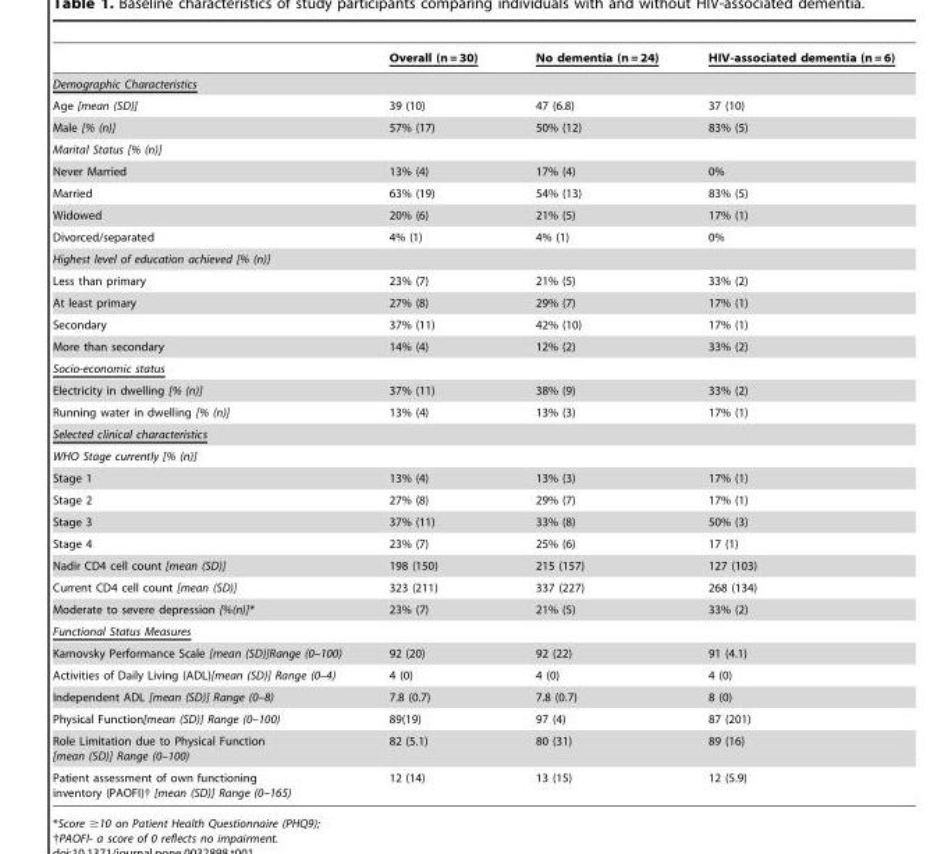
<table><thead><tr><td></td><td>Overall (n = 30)</td><td>No dementia (n = 24)</td><td>HIV-associated dementia (n = 6)</td></tr></thead><tbody><tr><td colspan="4">Demographic Characteristics</td></tr><tr><td>Age [mean (SD)]</td><td>39 (10)</td><td>47 (6.8)</td><td>37 (10)</td></tr><tr><td>Male [% (n)]</td><td>57% (17)</td><td>50% (12)</td><td>83% (5)</td></tr><tr><td colspan="4">Marital Status [% (n)]</td></tr><tr><td>Never Married</td><td>13% (4)</td><td>17% (4)</td><td>0%</td></tr><tr><td>Married</td><td>63% (19)</td><td>54% (13)</td><td>83% (5)</td></tr><tr><td>Widowed</td><td>20% (6)</td><td>21% (5)</td><td>17% (1)</td></tr><tr><td>Divorced/separated</td><td>4% (1)</td><td>4% (1)</td><td>0%</td></tr><tr><td colspan="4">Highest level of education achieved [% (n)]</td></tr><tr><td>Less than primary</td><td>23% (7)</td><td>21% (5)</td><td>33% (2)</td></tr><tr><td>At least primary</td><td>27% (8)</td><td>29% (7)</td><td>17% (1)</td></tr><tr><td>Secondary</td><td>37% (11)</td><td>42% (10)</td><td>17% (1)</td></tr><tr><td>More than secondary</td><td>14% (4)</td><td>12% (2)</td><td>33% (2)</td></tr><tr><td colspan="4">Socio-economic status</td></tr><tr><td>Electricity in dwelling [% (n)]</td><td>37% (11)</td><td>38% (9)</td><td>33% (2)</td></tr><tr><td>Running water in dwelling [% (n)]</td><td>13% (4)</td><td>13% (3)</td><td>17% (1)</td></tr><tr><td colspan="4">Selected clinical characteristics</td></tr><tr><td colspan="4">WHO Stage currently [% (n)]</td></tr><tr><td>Stage 1</td><td>13% (4)</td><td>13% (3)</td><td>17% (1)</td></tr><tr><td>Stage 2</td><td>27% (8)</td><td>29% (7)</td><td>17% (1)</td></tr><tr><td>Stage 3</td><td>37% (11)</td><td>33% (8)</td><td>50% (3)</td></tr><tr><td>Stage 4</td><td>23% (7)</td><td>25% (6)</td><td>17 (1)</td></tr><tr><td>Nadir CD4 cell count [mean (SD)]</td><td>198 (150)</td><td>215 (157)</td><td>127 (103)</td></tr><tr><td>Current CD4 cell count [mean (SD)]</td><td>323 (211)</td><td>337 (227)</td><td>268 (134)</td></tr><tr><td>Moderate to severe depression [%(n)]*</td><td>23% (7)</td><td>21% (5)</td><td>33% (2)</td></tr><tr><td colspan="4">Functional Status Measures</td></tr><tr><td>Karnovsky Performance Scale [mean (SD)]Range (0–100)</td><td>92 (20)</td><td>92 (22)</td><td>91 (4.1)</td></tr><tr><td>Activities of Daily Living (ADL)[mean (SD)] Range (0–4)</td><td>4 (0)</td><td>4 (0)</td><td>4 (0)</td></tr><tr><td>Independent ADL [mean (SD)] Range (0–8)</td><td>7.8 (0.7)</td><td>7.8 (0.7)</td><td>8 (0)</td></tr><tr><td>Physical Function[mean (SD)] Range (0–100)</td><td>89(19)</td><td>97 (4)</td><td>87 (201)</td></tr><tr><td>Role Limitation due to Physical Function [mean (SD)] Range (0–100)</td><td>82 (5.1)</td><td>80 (31)</td><td>89 (16)</td></tr><tr><td>Patient assessment of own functioning inventory (PAOFI)† [mean (SD)] Range (0–165)</td><td>12 (14)</td><td>13 (15)</td><td>12 (5.9)</td></tr></tbody></table>